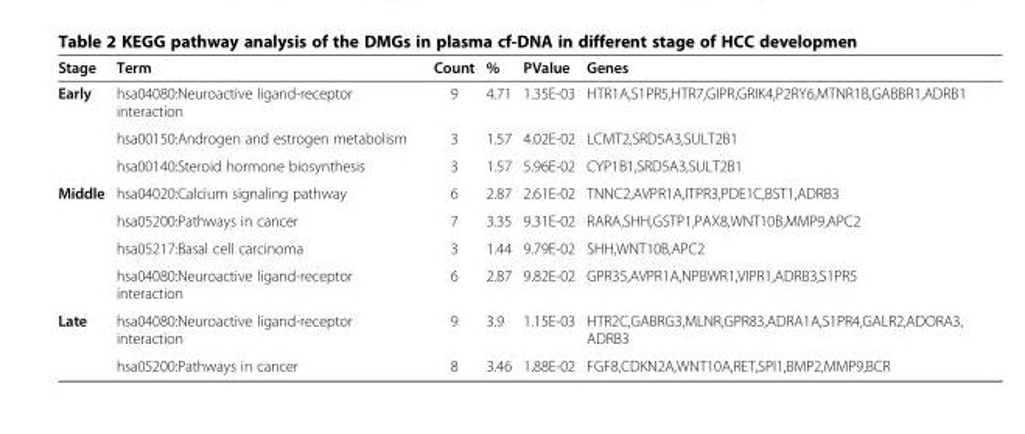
<table><thead><tr><td>Stage</td><td>Term</td><td>Count</td><td>%</td><td>PValue</td><td>Genes</td></tr></thead><tbody><tr><td rowspan="3">Early</td><td>hsa04080:Neuroactive ligand-receptor interaction</td><td>9</td><td>4.71</td><td>1.35E-03</td><td>HTR1A,S1PR5,HTR7,GIPR,GRIK4,P2RY6,MTNR1B,GABBR1,ADRB1</td></tr><tr><td>hsa00150:Androgen and estrogen metabolism</td><td>3</td><td>1.57</td><td>4.02E-02</td><td>LCMT2,SRD5A3,SULT2B1</td></tr><tr><td>hsa00140:Steroid hormone biosynthesis</td><td>3</td><td>1.57</td><td>5.96E-02</td><td>CYP1B1,SRD5A3,SULT2B1</td></tr><tr><td rowspan="4">Middle</td><td>hsa04020:Calcium signaling pathway</td><td>6</td><td>2.87</td><td>2.61E-02</td><td>TNNC2,AVPR1A,ITPR3,PDE1C,BST1,ADRB3</td></tr><tr><td>hsa05200:Pathways in cancer</td><td>7</td><td>3.35</td><td>9.31E-02</td><td>RARA,SHH,GSTP1,PAX8,WNT10B,MMP9,APC2</td></tr><tr><td>hsa05217:Basal cell carcinoma</td><td>3</td><td>1.44</td><td>9.79E-02</td><td>SHH,WNT10B,APC2</td></tr><tr><td>hsa04080:Neuroactive ligand-receptor interaction</td><td>6</td><td>2.87</td><td>9.82E-02</td><td>GPR35,AVPR1A,NPBWR1,VIPR1,ADRB3,S1PR5</td></tr><tr><td rowspan="2">Late</td><td>hsa04080:Neuroactive ligand-receptor interaction</td><td>9</td><td>3.9</td><td>1.15E-03</td><td>HTR2C,GABRG3,MLNR,GPR83,ADRA1A,S1PR4,GALR2,ADORA3, ADRB3</td></tr><tr><td>hsa05200:Pathways in cancer</td><td>8</td><td>3.46</td><td>1.88E-02</td><td>FGF8,CDKN2A,WNT10A,RET,SPI1,BMP2,MMP9,BCR</td></tr></tbody></table>